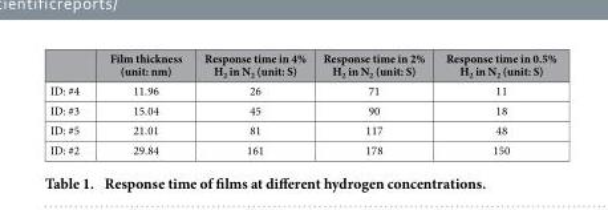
<table><thead><tr><td></td><td>Film thickness (unit: nm)</td><td>Response time in 4% H<sub>2</sub> in N<sub>2</sub> (unit: S)</td><td>Response time in 2% H<sub>2</sub> in N<sub>2</sub> (unit: S)</td><td>Response time in 0.5% H<sub>2</sub> in N<sub>2</sub> (unit: S)</td></tr></thead><tbody><tr><td>ID: #4</td><td>11.96</td><td>26</td><td>71</td><td>11</td></tr><tr><td>ID: #3</td><td>15.04</td><td>45</td><td>90</td><td>18</td></tr><tr><td>ID: #5</td><td>21.01</td><td>81</td><td>117</td><td>48</td></tr><tr><td>ID: #2</td><td>29.84</td><td>161</td><td>178</td><td>150</td></tr></tbody></table>